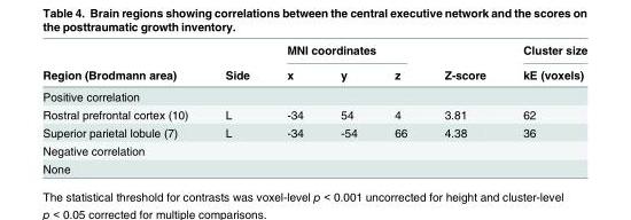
<table><thead><tr><td rowspan="2">Region (Brodmann area)</td><td rowspan="2">Side</td><td colspan="3">MNI coordinates</td><td rowspan="2">Z-score</td><td rowspan="2">Cluster size kE (voxels)</td></tr><tr><td>x</td><td>y</td><td>z</td></tr></thead><tbody><tr><td colspan="7">Positive correlation</td></tr><tr><td>Rostral prefrontal cortex (10)</td><td>L</td><td>-34</td><td>54</td><td>4</td><td>3.81</td><td>62</td></tr><tr><td>Superior parietal lobule (7)</td><td>L</td><td>-34</td><td>-54</td><td>66</td><td>4.38</td><td>36</td></tr><tr><td colspan="7">Negative correlation</td></tr><tr><td colspan="7">None</td></tr></tbody></table>